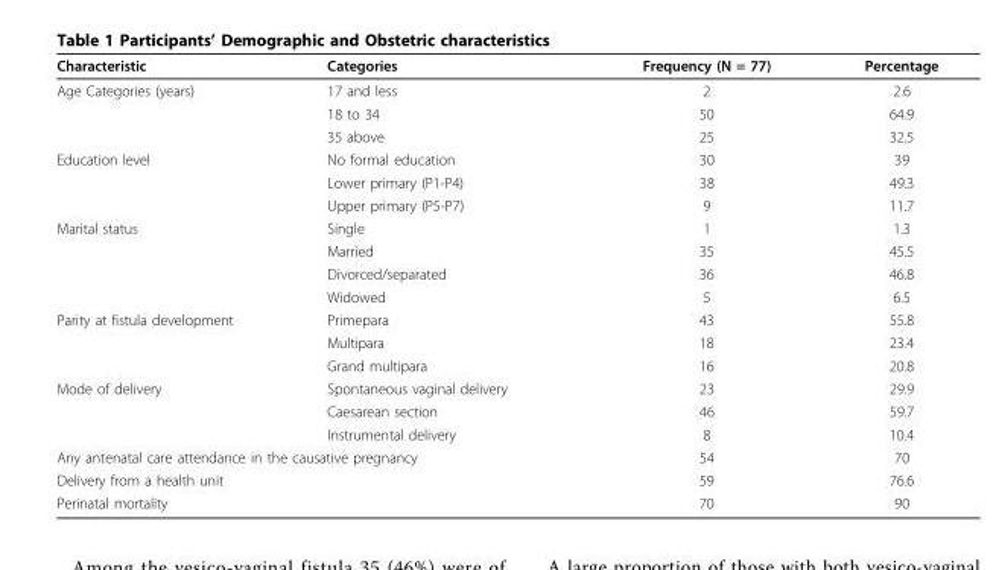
<table><thead><tr><td>Characteristic</td><td>Categories</td><td>Frequency (N = 77)</td><td>Percentage</td></tr></thead><tbody><tr><td rowspan="3">Age Categories (years)</td><td>17 and less</td><td>2</td><td>2.6</td></tr><tr><td>18 to 34</td><td>50</td><td>64.9</td></tr><tr><td>35 above</td><td>25</td><td>32.5</td></tr><tr><td rowspan="3">Education level</td><td>No formal education</td><td>30</td><td>39</td></tr><tr><td>Lower primary (P1-P4)</td><td>38</td><td>49.3</td></tr><tr><td>Upper primary (P5-P7)</td><td>9</td><td>11.7</td></tr><tr><td rowspan="4">Marital status</td><td>Single</td><td>1</td><td>1.3</td></tr><tr><td>Married</td><td>35</td><td>45.5</td></tr><tr><td>Divorced/separated</td><td>36</td><td>46.8</td></tr><tr><td>Widowed</td><td>5</td><td>6.5</td></tr><tr><td rowspan="3">Parity at fistula development</td><td>Primepara</td><td>43</td><td>55.8</td></tr><tr><td>Multipara</td><td>18</td><td>23.4</td></tr><tr><td>Grand multipara</td><td>16</td><td>20.8</td></tr><tr><td rowspan="3">Mode of delivery</td><td>Spontaneous vaginal delivery</td><td>23</td><td>29.9</td></tr><tr><td>Caesarean section</td><td>46</td><td>59.7</td></tr><tr><td>Instrumental delivery</td><td>8</td><td>10.4</td></tr><tr><td colspan="2">Any antenatal care attendance in the causative pregnancy</td><td>54</td><td>70</td></tr><tr><td colspan="2">Delivery from a health unit</td><td>59</td><td>76.6</td></tr><tr><td colspan="2">Perinatal mortality</td><td>70</td><td>90</td></tr></tbody></table>